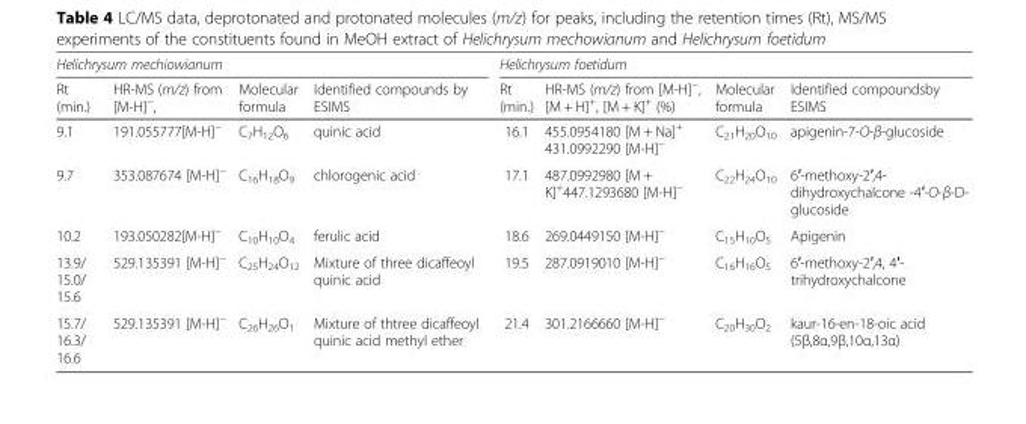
<table><thead><tr><td colspan="4">Helichrysum mechiowianum</td><td colspan="4">Helichrysum foetidum</td></tr><tr><td>Rt (min.)</td><td>HR-MS (m/z) from [M-H]<sup>−</sup>,</td><td>Molecular formula</td><td>Identified compounds by ESIMS</td><td>Rt (min.)</td><td>HR-MS (m/z) from [M-H]<sup>−</sup>, [M + H]<sup>+</sup>, [M + K]<sup>+</sup> (%)</td><td>Molecular formula</td><td>Identified compoundsby ESIMS</td></tr></thead><tbody><tr><td>9.1</td><td>191.055777[M-H]<sup>−</sup></td><td>C<sub>7</sub>H<sub>12</sub>O<sub>6</sub></td><td>quinic acid</td><td>16.1</td><td>455.0954180 [M + Na]<sup>+</sup> 431.0992290 [M-H]<sup>−</sup></td><td>C<sub>21</sub>H<sub>20</sub>O<sub>10</sub></td><td>apigenin-7-O-β-glucoside</td></tr><tr><td>9.7</td><td>353.087674 [M-H]<sup>−</sup></td><td>C<sub>16</sub>H<sub>18</sub>O<sub>9</sub></td><td>chlorogenic acid</td><td>17.1</td><td>487.0992980 [M + K]<sup>+</sup>447.1293680 [M-H]<sup>−</sup></td><td>C<sub>22</sub>H<sub>24</sub>O<sub>10</sub></td><td>6′-methoxy-2′,4- dihydroxychalcone -4′-O-β-D- glucoside</td></tr><tr><td>10.2</td><td>193.050282[M-H]<sup>−</sup></td><td>C<sub>10</sub>H<sub>10</sub>O<sub>4</sub></td><td>ferulic acid</td><td>18.6</td><td>269.0449150 [M-H]<sup>−</sup></td><td>C<sub>15</sub>H<sub>10</sub>O<sub>5</sub></td><td>Apigenin</td></tr><tr><td>13.9/ 15.0/ 15.6</td><td>529.135391 [M-H]<sup>−</sup></td><td>C<sub>25</sub>H<sub>24</sub>O<sub>12</sub></td><td>Mixture of three dicaffeoyl quinic acid</td><td>19.5</td><td>287.0919010 [M-H]<sup>−</sup></td><td>C<sub>16</sub>H<sub>16</sub>O<sub>5</sub></td><td>6′-methoxy-2′,4, 4′- trihydroxychalcone</td></tr><tr><td>15.7/ 16.3/ 16.6</td><td>529.135391 [M-H]<sup>−</sup></td><td>C<sub>26</sub>H<sub>26</sub>O<sub>1</sub></td><td>Mixture of thtree dicaffeoyl quinic acid methyl ether</td><td>21.4</td><td>301.2166660 [M-H]<sup>−</sup></td><td>C<sub>20</sub>H<sub>30</sub>O<sub>2</sub></td><td>kaur-16-en-18-oic acid (5β,8α,9β,10α,13α)</td></tr></tbody></table>